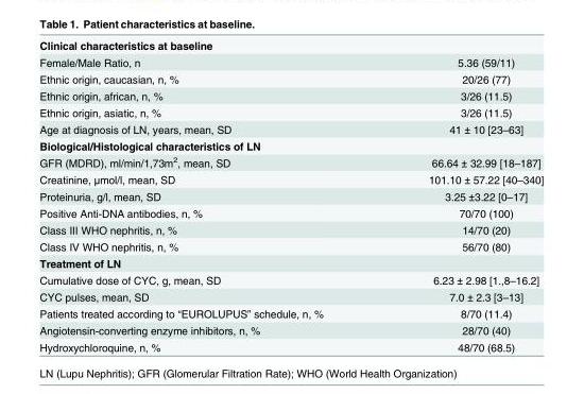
<table><tbody><tr><td colspan="2">Clinical characteristics at baseline</td></tr><tr><td>Female/Male Ratio, n</td><td>5.36 (59/11)</td></tr><tr><td>Ethnic origin, caucasian, n, %</td><td>20/26 (77)</td></tr><tr><td>Ethnic origin, african, n, %</td><td>3/26 (11.5)</td></tr><tr><td>Ethnic origin, asiatic, n, %</td><td>3/26 (11.5)</td></tr><tr><td>Age at diagnosis of LN, years, mean, SD</td><td>41 ± 10 [23–63]</td></tr><tr><td colspan="2">Biological/Histological characteristics of LN</td></tr><tr><td>GFR (MDRD), ml/min/1,73m<sup>2</sup>, mean, SD</td><td>66.64 ± 32.99 [18–187]</td></tr><tr><td>Creatinine, μmol/l, mean, SD</td><td>101.10 ± 57.22 [40–340]</td></tr><tr><td>Proteinuria, g/l, mean, SD</td><td>3.25 ±3.22 [0–17]</td></tr><tr><td>Positive Anti-DNA antibodies, n, %</td><td>70/70 (100)</td></tr><tr><td>Class III WHO nephritis, n, %</td><td>14/70 (20)</td></tr><tr><td>Class IV WHO nephritis, n, %</td><td>56/70 (80)</td></tr><tr><td colspan="2">Treatment of LN</td></tr><tr><td>Cumulative dose of CYC, g, mean, SD</td><td>6.23 ± 2.98 [1.,8–16.2]</td></tr><tr><td>CYC pulses, mean, SD</td><td>7.0 ± 2.3 [3–13]</td></tr><tr><td>Patients treated according to “EUROLUPUS” schedule, n, %</td><td>8/70 (11.4)</td></tr><tr><td>Angiotensin-converting enzyme inhibitors, n, %</td><td>28/70 (40)</td></tr><tr><td>Hydroxychloroquine, n, %</td><td>48/70 (68.5)</td></tr></tbody></table>